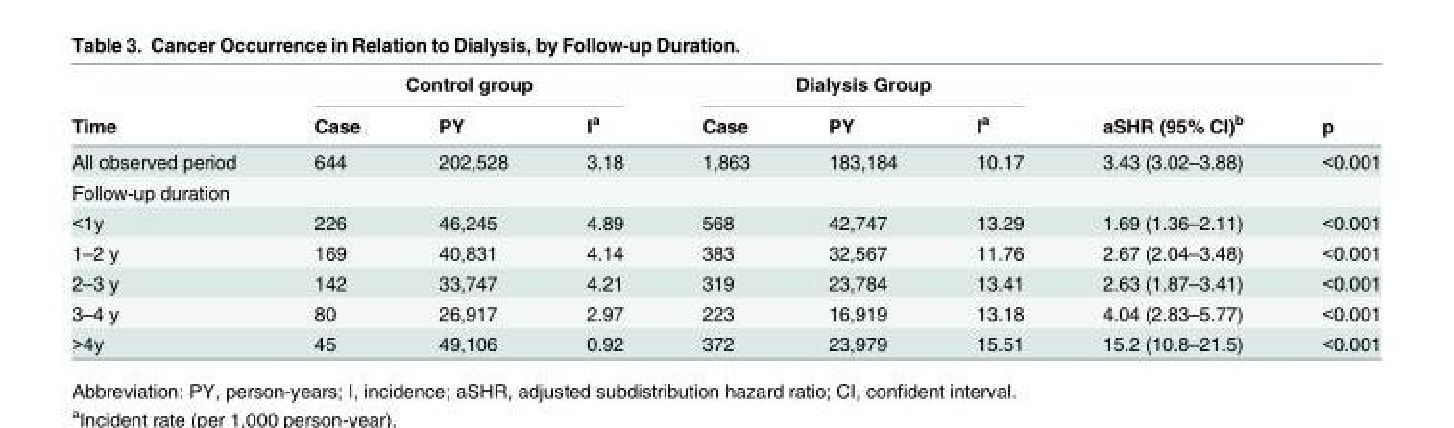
<table><thead><tr><td rowspan="2">Time</td><td colspan="3">Control group</td><td colspan="3">Dialysis Group</td><td rowspan="2">aSHR (95% CI)<sup>b</sup></td><td rowspan="2">p</td></tr><tr><td>Case</td><td>PY</td><td>I<sup>a</sup></td><td>Case</td><td>PY</td><td>I<sup>a</sup></td></tr></thead><tbody><tr><td>All observed period</td><td>644</td><td>202,528</td><td>3.18</td><td>1,863</td><td>183,184</td><td>10.17</td><td>3.43 (3.02–3.88)</td><td>&lt;0.001</td></tr><tr><td colspan="9">Follow-up duration</td></tr><tr><td>&lt;1y</td><td>226</td><td>46,245</td><td>4.89</td><td>568</td><td>42,747</td><td>13.29</td><td>1.69 (1.36–2.11)</td><td>&lt;0.001</td></tr><tr><td>1–2 y</td><td>169</td><td>40,831</td><td>4.14</td><td>383</td><td>32,567</td><td>11.76</td><td>2.67 (2.04–3.48)</td><td>&lt;0.001</td></tr><tr><td>2–3 y</td><td>142</td><td>33,747</td><td>4.21</td><td>319</td><td>23,784</td><td>13.41</td><td>2.63 (1.87–3.41)</td><td>&lt;0.001</td></tr><tr><td>3–4 y</td><td>80</td><td>26,917</td><td>2.97</td><td>223</td><td>16,919</td><td>13.18</td><td>4.04 (2.83–5.77)</td><td>&lt;0.001</td></tr><tr><td>&gt;4y</td><td>45</td><td>49,106</td><td>0.92</td><td>372</td><td>23,979</td><td>15.51</td><td>15.2 (10.8–21.5)</td><td>&lt;0.001</td></tr></tbody></table>